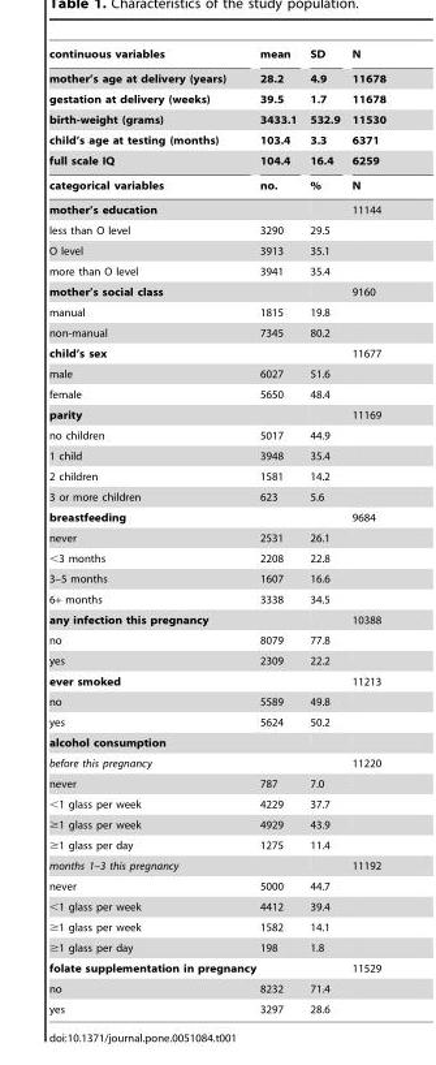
<table><thead><tr><td rowspan="7">continuous variables mother’s age at delivery (years) gestation at delivery (weeks) birth-weight (grams) child’s age at testing (months) full scale IQ categorical variables</td><td rowspan="7">mean 28.2 39.5 3433.1 103.4 104.4 no.</td><td rowspan="7">SD 4.9 1.7 532.9 3.3 16.4 %</td><td rowspan="7">N 11678 11678 11530 6371 6259 N</td></tr><tr></tr><tr></tr><tr></tr><tr></tr><tr></tr><tr></tr></thead><tbody><tr><td>mother’s education</td><td></td><td></td><td>11144</td></tr><tr><td>less than O level</td><td>3290</td><td>29.5</td><td></td></tr><tr><td>O level</td><td>3913</td><td>35.1</td><td></td></tr><tr><td>more than O level</td><td>3941</td><td>35.4</td><td></td></tr><tr><td>mother’s social class</td><td></td><td></td><td>9160</td></tr><tr><td>manual</td><td>1815</td><td>19.8</td><td></td></tr><tr><td>non-manual</td><td>7345</td><td>80.2</td><td></td></tr><tr><td>child’s sex</td><td></td><td></td><td>11677</td></tr><tr><td>male</td><td>6027</td><td>51.6</td><td></td></tr><tr><td>female</td><td>5650</td><td>48.4</td><td></td></tr><tr><td>parity</td><td></td><td></td><td>11169</td></tr><tr><td>no children</td><td>5017</td><td>44.9</td><td></td></tr><tr><td>1 child</td><td>3948</td><td>35.4</td><td></td></tr><tr><td>2 children</td><td>1581</td><td>14.2</td><td></td></tr><tr><td>3 or more children</td><td>623</td><td>5.6</td><td></td></tr><tr><td>breastfeeding</td><td></td><td></td><td>9684</td></tr><tr><td>never</td><td>2531</td><td>26.1</td><td></td></tr><tr><td>&lt;3 months</td><td>2208</td><td>22.8</td><td></td></tr><tr><td>3–5 months</td><td>1607</td><td>16.6</td><td></td></tr><tr><td>6+ months</td><td>3338</td><td>34.5</td><td></td></tr><tr><td>any infection this pregnancy</td><td></td><td></td><td>10388</td></tr><tr><td>no</td><td>8079</td><td>77.8</td><td></td></tr><tr><td>yes</td><td>2309</td><td>22.2</td><td></td></tr><tr><td>ever smoked</td><td></td><td></td><td>11213</td></tr><tr><td>no</td><td>5589</td><td>49.8</td><td></td></tr><tr><td>yes</td><td>5624</td><td>50.2</td><td></td></tr><tr><td colspan="4">alcohol consumption</td></tr><tr><td>before this pregnancy</td><td></td><td></td><td>11220</td></tr><tr><td>never</td><td>787</td><td>7.0</td><td></td></tr><tr><td>&lt;1 glass per week</td><td>4229</td><td>37.7</td><td></td></tr><tr><td>≥1 glass per week</td><td>4929</td><td>43.9</td><td></td></tr><tr><td>≥1 glass per day</td><td>1275</td><td>11.4</td><td></td></tr><tr><td>months 1–3 this pregnancy</td><td></td><td></td><td>11192</td></tr><tr><td>never</td><td>5000</td><td>44.7</td><td></td></tr><tr><td>&lt;1 glass per week</td><td>4412</td><td>39.4</td><td></td></tr><tr><td>≥1 glass per week</td><td>1582</td><td>14.1</td><td></td></tr><tr><td>≥1 glass per day</td><td>198</td><td>1.8</td><td></td></tr><tr><td>folate supplementation in pregnancy</td><td></td><td></td><td>11529</td></tr><tr><td>no</td><td>8232</td><td>71.4</td><td></td></tr><tr><td>yes</td><td>3297</td><td>28.6</td><td></td></tr></tbody></table>